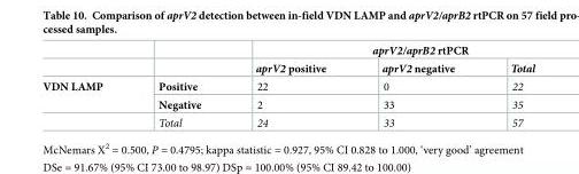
<table><thead><tr><td rowspan="2"></td><td rowspan="2"></td><td colspan="3">aprV2/aprB2 rtPCR</td></tr><tr><td>aprV2 positive</td><td>aprV2 negative</td><td>Total</td></tr></thead><tbody><tr><td rowspan="3">VDN LAMP</td><td>Positive</td><td>22</td><td>0</td><td>22</td></tr><tr><td>Negative</td><td>2</td><td>33</td><td>35</td></tr><tr><td>Total</td><td>24</td><td>33</td><td>57</td></tr></tbody></table>